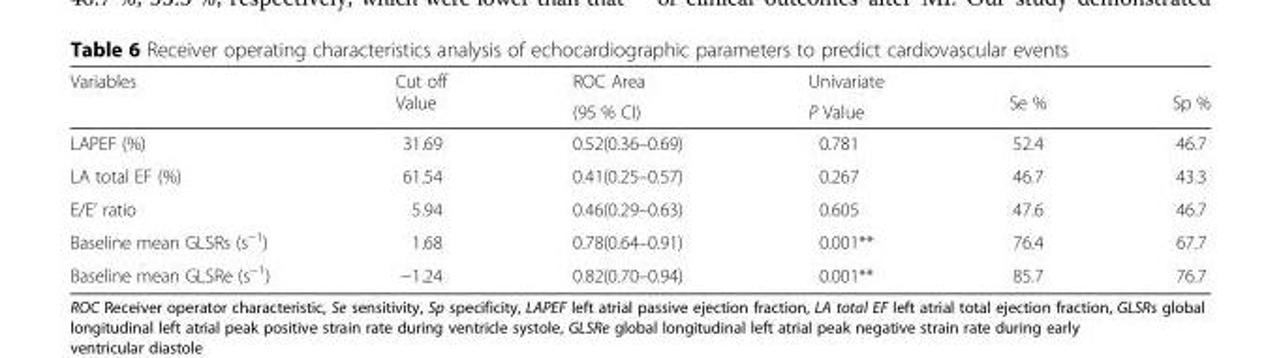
<table><thead><tr><td rowspan="2">Variables</td><td rowspan="2">Cut off Value</td><td rowspan="2">ROC Area (95 % CI)</td><td rowspan="2">Univariate P Value</td><td rowspan="2">Se %</td><td rowspan="2">Sp %</td></tr><tr></tr></thead><tbody><tr><td>LAPEF (%)</td><td>31.69</td><td>0.52(0.36–0.69)</td><td>0.781</td><td>52.4</td><td>46.7</td></tr><tr><td>LA total EF (%)</td><td>61.54</td><td>0.41(0.25–0.57)</td><td>0.267</td><td>46.7</td><td>43.3</td></tr><tr><td>E/E’ ratio</td><td>5.94</td><td>0.46(0.29–0.63)</td><td>0.605</td><td>47.6</td><td>46.7</td></tr><tr><td>Baseline mean GLSRs (s<sup>−1</sup>)</td><td>1.68</td><td>0.78(0.64–0.91)</td><td>0.001**</td><td>76.4</td><td>67.7</td></tr><tr><td>Baseline mean GLSRe (s<sup>−1</sup>)</td><td>−1.24</td><td>0.82(0.70–0.94)</td><td>0.001**</td><td>85.7</td><td>76.7</td></tr></tbody></table>